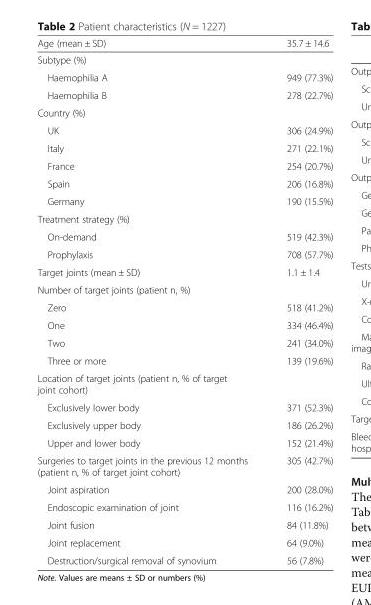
<table><thead><tr><td>Age (mean ± SD)</td><td>35.7 ± 14.6</td></tr></thead><tbody><tr><td colspan="2">Subtype (%)</td></tr><tr><td>Haemophilia A</td><td>949 (77.3%)</td></tr><tr><td>Haemophilia B</td><td>278 (22.7%)</td></tr><tr><td colspan="2">Country (%)</td></tr><tr><td>UK</td><td>306 (24.9%)</td></tr><tr><td>Italy</td><td>271 (22.1%)</td></tr><tr><td>France</td><td>254 (20.7%)</td></tr><tr><td>Spain</td><td>206 (16.8%)</td></tr><tr><td>Germany</td><td>190 (15.5%)</td></tr><tr><td colspan="2">Treatment strategy (%)</td></tr><tr><td>On-demand</td><td>519 (42.3%)</td></tr><tr><td>Prophylaxis</td><td>708 (57.7%)</td></tr><tr><td>Target joints (mean ± SD)</td><td>1.1 ± 1.4</td></tr><tr><td colspan="2">Number of target joints (patient n, %)</td></tr><tr><td>Zero</td><td>518 (41.2%)</td></tr><tr><td>One</td><td>334 (46.4%)</td></tr><tr><td>Two</td><td>241 (34.0%)</td></tr><tr><td>Three or more</td><td>139 (19.6%)</td></tr><tr><td colspan="2">Location of target joints (patient n, % of target joint cohort)</td></tr><tr><td>Exclusively lower body</td><td>371 (52.3%)</td></tr><tr><td>Exclusively upper body</td><td>186 (26.2%)</td></tr><tr><td>Upper and lower body</td><td>152 (21.4%)</td></tr><tr><td>Surgeries to target joints in the previous 12 months (patient n, % of target joint cohort)</td><td>305 (42.7%)</td></tr><tr><td>Joint aspiration</td><td>200 (28.0%)</td></tr><tr><td>Endoscopic examination of joint</td><td>116 (16.2%)</td></tr><tr><td>Joint fusion</td><td>84 (11.8%)</td></tr><tr><td>Joint replacement</td><td>64 (9.0%)</td></tr><tr><td>Destruction/surgical removal of synovium</td><td>56 (7.8%)</td></tr></tbody></table>